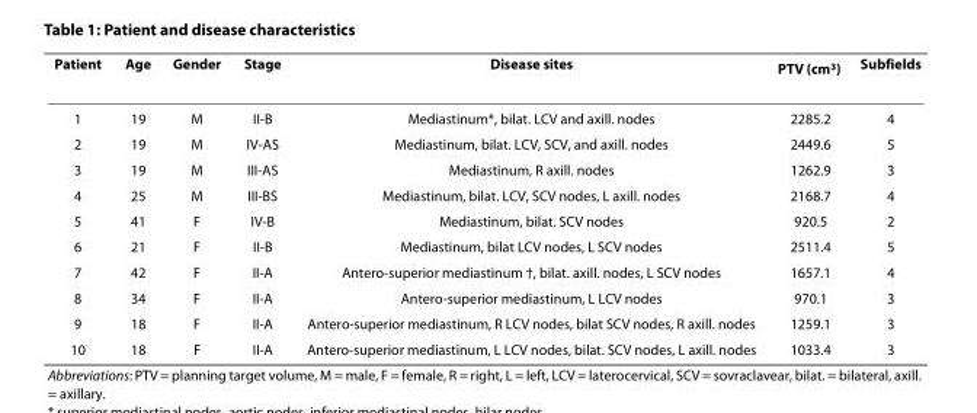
<table><thead><tr><td>Patient</td><td>Age</td><td>Gender</td><td>Stage</td><td>Disease sites</td><td>PTV (cm<sup>3</sup>)</td><td>Subfields</td></tr></thead><tbody><tr><td>1</td><td>19</td><td>M</td><td>II-B</td><td>Mediastinum*, bilat. LCV and axill. nodes</td><td>2285.2</td><td>4</td></tr><tr><td>2</td><td>19</td><td>M</td><td>IV-AS</td><td>Mediastinum, bilat. LCV, SCV, and axill. nodes</td><td>2449.6</td><td>5</td></tr><tr><td>3</td><td>19</td><td>M</td><td>III-AS</td><td>Mediastinum, R axill. nodes</td><td>1262.9</td><td>3</td></tr><tr><td>4</td><td>25</td><td>M</td><td>III-BS</td><td>Mediastinum, bilat. LCV, SCV nodes, L axill. nodes</td><td>2168.7</td><td>4</td></tr><tr><td>5</td><td>41</td><td>F</td><td>IV-B</td><td>Mediastinum, bilat. SCV nodes</td><td>920.5</td><td>2</td></tr><tr><td>6</td><td>21</td><td>F</td><td>II-B</td><td>Mediastinum, bilat LCV nodes, L SCV nodes</td><td>2511.4</td><td>5</td></tr><tr><td>7</td><td>42</td><td>F</td><td>II-A</td><td>Antero-superior mediastinum †, bilat. axill. nodes, L SCV nodes</td><td>1657.1</td><td>4</td></tr><tr><td>8</td><td>34</td><td>F</td><td>II-A</td><td>Antero-superior mediastinum, L LCV nodes</td><td>970.1</td><td>3</td></tr><tr><td>9</td><td>18</td><td>F</td><td>II-A</td><td>Antero-superior mediastinum, R LCV nodes, bilat SCV nodes, R axill. nodes</td><td>1259.1</td><td>3</td></tr><tr><td>10</td><td>18</td><td>F</td><td>II-A</td><td>Antero-superior mediastinum, L LCV nodes, bilat. SCV nodes, L axill. nodes</td><td>1033.4</td><td>3</td></tr></tbody></table>